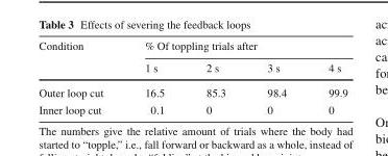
<table><thead><tr><td rowspan="2">Condition</td><td colspan="4">% Of toppling trials after</td></tr><tr><td>1 s</td><td>2 s</td><td>3 s</td><td>4 s</td></tr></thead><tbody><tr><td>Outer loop cut</td><td>16.5</td><td>85.3</td><td>98.4</td><td>99.9</td></tr><tr><td>Inner loop cut</td><td>0.1</td><td>0</td><td>0</td><td>0</td></tr></tbody></table>